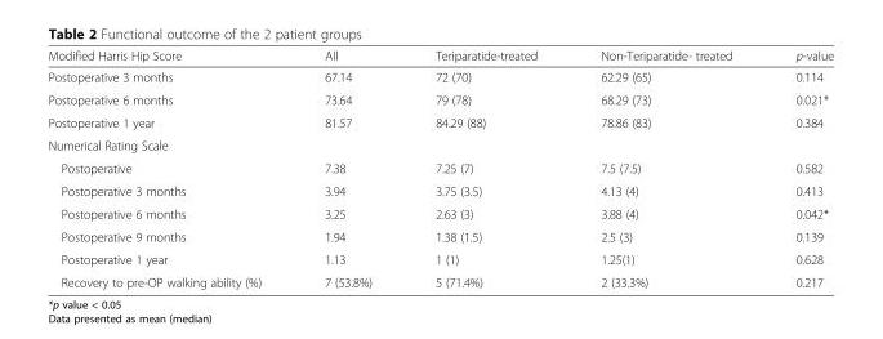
<table><thead><tr><td>Modified Harris Hip Score</td><td>All</td><td>Teriparatide-treated</td><td>Non-Teriparatide- treated</td><td>p-value</td></tr></thead><tbody><tr><td>Postoperative 3 months</td><td>67.14</td><td>72 (70)</td><td>62.29 (65)</td><td>0.114</td></tr><tr><td>Postoperative 6 months</td><td>73.64</td><td>79 (78)</td><td>68.29 (73)</td><td>0.021*</td></tr><tr><td>Postoperative 1 year</td><td>81.57</td><td>84.29 (88)</td><td>78.86 (83)</td><td>0.384</td></tr><tr><td colspan="5">Numerical Rating Scale</td></tr><tr><td>Postoperative</td><td>7.38</td><td>7.25 (7)</td><td>7.5 (7.5)</td><td>0.582</td></tr><tr><td>Postoperative 3 months</td><td>3.94</td><td>3.75 (3.5)</td><td>4.13 (4)</td><td>0.413</td></tr><tr><td>Postoperative 6 months</td><td>3.25</td><td>2.63 (3)</td><td>3.88 (4)</td><td>0.042*</td></tr><tr><td>Postoperative 9 months</td><td>1.94</td><td>1.38 (1.5)</td><td>2.5 (3)</td><td>0.139</td></tr><tr><td>Postoperative 1 year</td><td>1.13</td><td>1 (1)</td><td>1.25(1)</td><td>0.628</td></tr><tr><td>Recovery to pre-OP walking ability (%)</td><td>7 (53.8%)</td><td>5 (71.4%)</td><td>2 (33.3%)</td><td>0.217</td></tr></tbody></table>